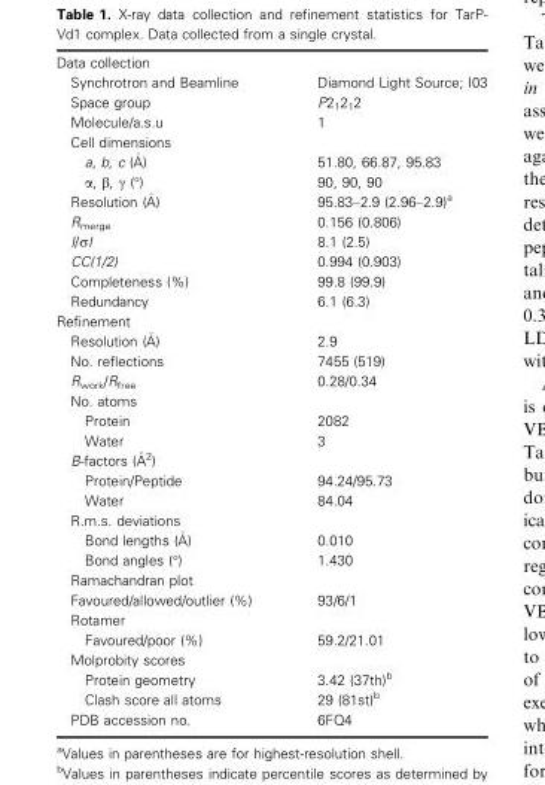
<table><tbody><tr><td colspan="2">Data collection</td></tr><tr><td>Synchrotron and Beamline</td><td>Diamond Light Source; I03</td></tr><tr><td>Space group</td><td>P2<sub>1</sub>2<sub>1</sub>2</td></tr><tr><td>Molecule/a.s.u</td><td>1</td></tr><tr><td colspan="2">Cell dimensions</td></tr><tr><td>a, b, c (�A)</td><td>51.80, 66.87, 95.83</td></tr><tr><td>α, β, γ (°)</td><td>90, 90, 90</td></tr><tr><td>Resolution (�A)</td><td>95.83–2.9 (2.96–2.9)<sup>a</sup></td></tr><tr><td>R<sub>merge</sub></td><td>0.156 (0.806)</td></tr><tr><td>I/σI</td><td>8.1 (2.5)</td></tr><tr><td>CC(1/2)</td><td>0.994 (0.903)</td></tr><tr><td>Completeness (%)</td><td>99.8 (99.9)</td></tr><tr><td>Redundancy</td><td>6.1 (6.3)</td></tr><tr><td colspan="2">Refinement</td></tr><tr><td>Resolution (�A)</td><td>2.9</td></tr><tr><td>No. reflections</td><td>7455 (519)</td></tr><tr><td>R<sub>work</sub>/R<sub>free</sub></td><td>0.28/0.34</td></tr><tr><td colspan="2">No. atoms</td></tr><tr><td>Protein</td><td>2082</td></tr><tr><td>Water</td><td>3</td></tr><tr><td colspan="2">B-factors (�A2)</td></tr><tr><td>Protein/Peptide</td><td>94.24/95.73</td></tr><tr><td>Water</td><td>84.04</td></tr><tr><td colspan="2">R.m.s. deviations</td></tr><tr><td>Bond lengths (�A)</td><td>0.010</td></tr><tr><td>Bond angles (°)</td><td>1.430</td></tr><tr><td colspan="2">Ramachandran plot</td></tr><tr><td>Favoured/allowed/outlier (%)</td><td>93/6/1</td></tr><tr><td colspan="2">Rotamer</td></tr><tr><td>Favoured/poor (%)</td><td>59.2/21.01</td></tr><tr><td colspan="2">Molprobity scores</td></tr><tr><td>Protein geometry</td><td>3.42 (37th)<sup>b</sup></td></tr><tr><td>Clash score all atoms</td><td>29 (81st)<sup>b</sup></td></tr><tr><td>PDB accession no.</td><td>6FQ4</td></tr></tbody></table>